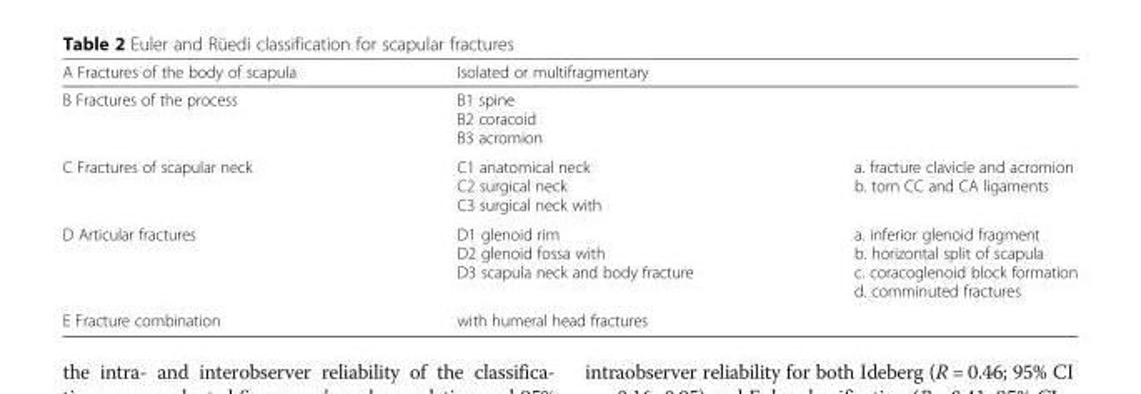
<table><thead><tr><td>A Fractures of the body of scapula</td><td>Isolated or multifragmentary</td><td></td></tr></thead><tbody><tr><td>B Fractures of the process</td><td>B1 spine B2 coracoid B3 acromion</td><td></td></tr><tr><td>C Fractures of scapular neck</td><td>C1 anatomical neck C2 surgical neck C3 surgical neck with</td><td>a. fracture clavicle and acromion b. torn CC and CA ligaments</td></tr><tr><td>D Articular fractures</td><td>D1 glenoid rim D2 glenoid fossa with D3 scapula neck and body fracture</td><td>a. inferior glenoid fragment b. horizontal split of scapula c. coracoglenoid block formation d. comminuted fractures</td></tr><tr><td>E Fracture combination</td><td>with humeral head fractures</td><td></td></tr></tbody></table>